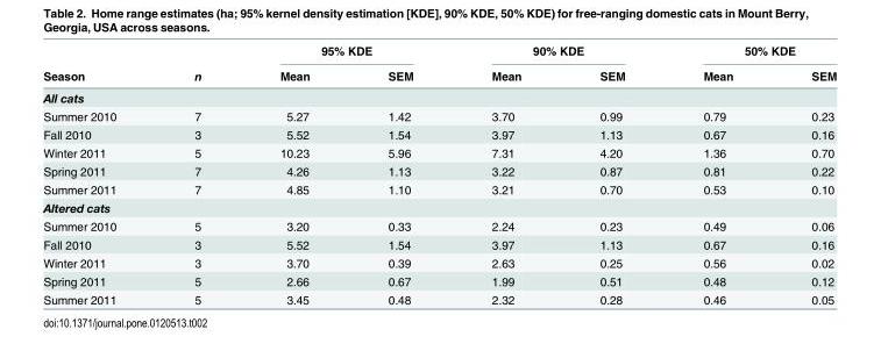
<table><thead><tr><td rowspan="2">Season</td><td rowspan="2">n</td><td colspan="2">95% KDE</td><td colspan="2">90% KDE</td><td colspan="2">50% KDE</td></tr><tr><td>Mean</td><td>SEM</td><td>Mean</td><td>SEM</td><td>Mean</td><td>SEM</td></tr></thead><tbody><tr><td colspan="8">All cats</td></tr><tr><td>Summer 2010</td><td>7</td><td>5.27</td><td>1.42</td><td>3.70</td><td>0.99</td><td>0.79</td><td>0.23</td></tr><tr><td>Fall 2010</td><td>3</td><td>5.52</td><td>1.54</td><td>3.97</td><td>1.13</td><td>0.67</td><td>0.16</td></tr><tr><td>Winter 2011</td><td>5</td><td>10.23</td><td>5.96</td><td>7.31</td><td>4.20</td><td>1.36</td><td>0.70</td></tr><tr><td>Spring 2011</td><td>7</td><td>4.26</td><td>1.13</td><td>3.22</td><td>0.87</td><td>0.81</td><td>0.22</td></tr><tr><td>Summer 2011</td><td>7</td><td>4.85</td><td>1.10</td><td>3.21</td><td>0.70</td><td>0.53</td><td>0.10</td></tr><tr><td colspan="8">Altered cats</td></tr><tr><td>Summer 2010</td><td>5</td><td>3.20</td><td>0.33</td><td>2.24</td><td>0.23</td><td>0.49</td><td>0.06</td></tr><tr><td>Fall 2010</td><td>3</td><td>5.52</td><td>1.54</td><td>3.97</td><td>1.13</td><td>0.67</td><td>0.16</td></tr><tr><td>Winter 2011</td><td>3</td><td>3.70</td><td>0.39</td><td>2.63</td><td>0.25</td><td>0.56</td><td>0.02</td></tr><tr><td>Spring 2011</td><td>5</td><td>2.66</td><td>0.67</td><td>1.99</td><td>0.51</td><td>0.48</td><td>0.12</td></tr><tr><td>Summer 2011</td><td>5</td><td>3.45</td><td>0.48</td><td>2.32</td><td>0.28</td><td>0.46</td><td>0.05</td></tr></tbody></table>